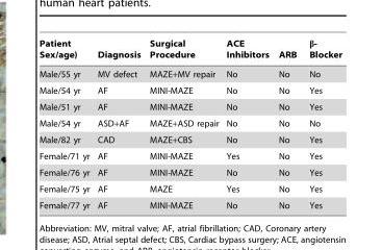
<table><thead><tr><td>Patient Sex/age)</td><td>Diagnosis</td><td>Surgical Procedure</td><td>ACE Inhibitors</td><td>ARB</td><td>β- Blocker</td></tr></thead><tbody><tr><td>Male/55 yr</td><td>MV defect</td><td>MAZE+MV repair</td><td>No</td><td>No</td><td>No</td></tr><tr><td>Male/54 yr</td><td>AF</td><td>MINI-MAZE</td><td>No</td><td>No</td><td>Yes</td></tr><tr><td>Male/51 yr</td><td>AF</td><td>MINI-MAZE</td><td>No</td><td>No</td><td>Yes</td></tr><tr><td>Male/54 yr</td><td>ASD+AF</td><td>MAZE+ASD repair</td><td>No</td><td>No</td><td>No</td></tr><tr><td>Male/82 yr</td><td>CAD</td><td>MAZE+CBS</td><td>No</td><td>No</td><td>Yes</td></tr><tr><td>Female/71 yr</td><td>AF</td><td>MINI-MAZE</td><td>Yes</td><td>No</td><td>Yes</td></tr><tr><td>Female/76 yr</td><td>AF</td><td>MINI-MAZE</td><td>No</td><td>No</td><td>Yes</td></tr><tr><td>Female/75 yr</td><td>AF</td><td>MAZE</td><td>Yes</td><td>No</td><td>Yes</td></tr><tr><td>Female/77 yr</td><td>AF</td><td>MINI-MAZE</td><td>No</td><td>No</td><td>Yes</td></tr></tbody></table>